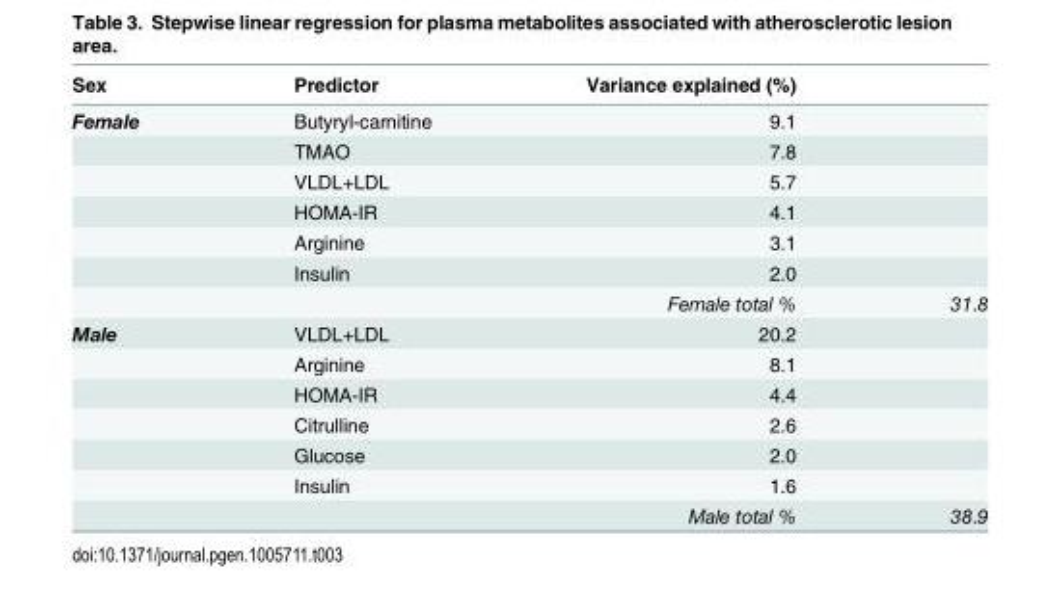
<table><thead><tr><td>Sex</td><td>Predictor</td><td>Variance explained (%)</td><td></td></tr></thead><tbody><tr><td rowspan="7">Female</td><td>Butyryl-carnitine</td><td>9.1</td><td></td></tr><tr><td>TMAO</td><td>7.8</td><td></td></tr><tr><td>VLDL+LDL</td><td>5.7</td><td></td></tr><tr><td>HOMA-IR</td><td>4.1</td><td></td></tr><tr><td>Arginine</td><td>3.1</td><td></td></tr><tr><td>Insulin</td><td>2.0</td><td></td></tr><tr><td></td><td>Female total %</td><td>31.8</td></tr><tr><td rowspan="7">Male</td><td>VLDL+LDL</td><td>20.2</td><td></td></tr><tr><td>Arginine</td><td>8.1</td><td></td></tr><tr><td>HOMA-IR</td><td>4.4</td><td></td></tr><tr><td>Citrulline</td><td>2.6</td><td></td></tr><tr><td>Glucose</td><td>2.0</td><td></td></tr><tr><td>Insulin</td><td>1.6</td><td></td></tr><tr><td></td><td>Male total %</td><td>38.9</td></tr></tbody></table>